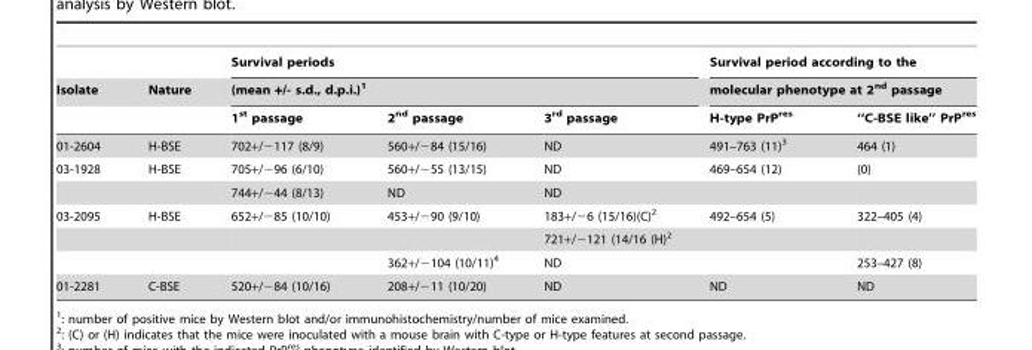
<table><thead><tr><td rowspan="3">Isolate</td><td rowspan="3">Nature</td><td rowspan="2" colspan="3">Survival periods (mean +/- s.d., d.p.i.)<sup>1</sup></td><td rowspan="2" colspan="2">Survival period according to the molecular phenotype at 2<sup>nd</sup> passage</td></tr><tr></tr><tr><td>1<sup>st</sup> passage</td><td>2<sup>nd</sup> passage</td><td>3<sup>rd</sup> passage</td><td>H-type PrP<sup>res</sup></td><td>‘‘C-BSE like’’ PrPres</td></tr></thead><tbody><tr><td>01-2604</td><td>H-BSE</td><td>702+/−117 (8/9)</td><td>560+/−84 (15/16)</td><td>ND</td><td>491–763 (11)<sup>3</sup></td><td>464 (1)</td></tr><tr><td rowspan="2">03-1928</td><td>H-BSE</td><td>705+/−96 (6/10)</td><td>560+/−55 (13/15)</td><td>ND</td><td>469–654 (12)</td><td>(0)</td></tr><tr><td></td><td>744+/−44 (8/13)</td><td>ND</td><td>ND</td><td></td><td></td></tr><tr><td rowspan="3">03-2095</td><td>H-BSE</td><td>652+/−85 (10/10)</td><td>453+/−90 (9/10)</td><td>183+/−6 (15/16)(C)<sup>2</sup></td><td>492–654 (5)</td><td>322–405 (4)</td></tr><tr><td></td><td></td><td></td><td>721+/−121 (14/16 (H)<sup>2</sup></td><td></td><td></td></tr><tr><td></td><td></td><td>362+/−104 (10/11)<sup>4</sup></td><td>ND</td><td></td><td>253–427 (8)</td></tr><tr><td>01-2281</td><td>C-BSE</td><td>520+/−84 (10/16)</td><td>208+/−11 (10/20)</td><td>ND</td><td>ND</td><td>ND</td></tr></tbody></table>